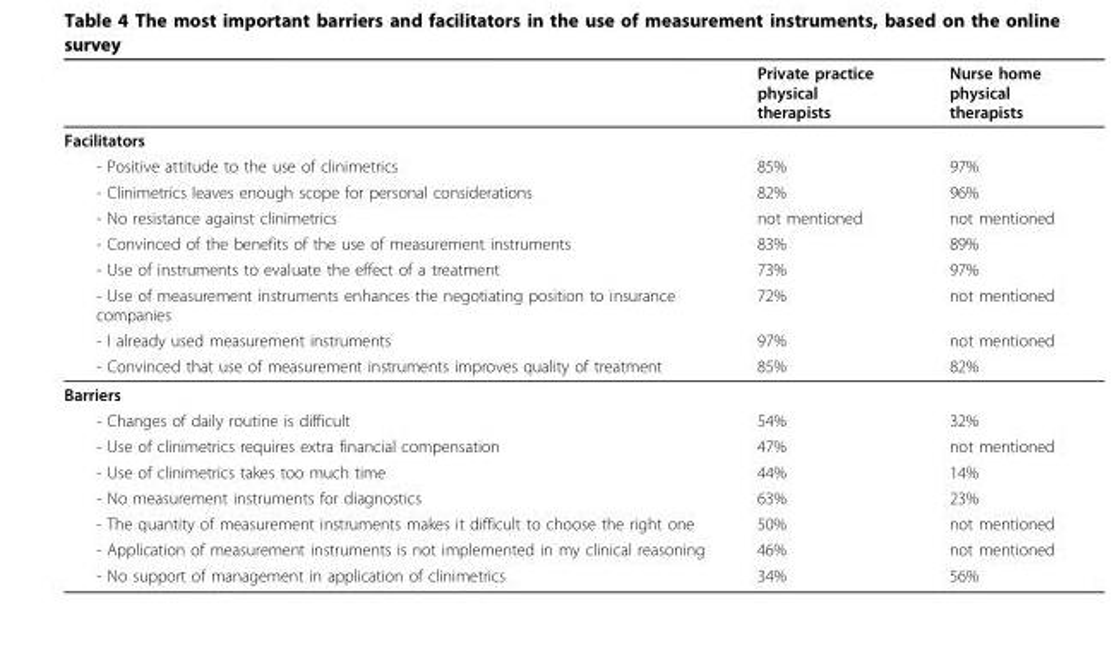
<table><thead><tr><td></td><td>Private practice physical therapists</td><td>Nurse home physical therapists</td></tr></thead><tbody><tr><td colspan="3">Facilitators</td></tr><tr><td>- Positive attitude to the use of clinimetrics</td><td>85%</td><td>97%</td></tr><tr><td>- Clinimetrics leaves enough scope for personal considerations</td><td>82%</td><td>96%</td></tr><tr><td>- No resistance against clinimetrics</td><td>not mentioned</td><td>not mentioned</td></tr><tr><td>- Convinced of the benefits of the use of measurement instruments</td><td>83%</td><td>89%</td></tr><tr><td>- Use of instruments to evaluate the effect of a treatment</td><td>73%</td><td>97%</td></tr><tr><td>- Use of measurement instruments enhances the negotiating position to insurance companies</td><td>72%</td><td>not mentioned</td></tr><tr><td>- I already used measurement instruments</td><td>97%</td><td>not mentioned</td></tr><tr><td>- Convinced that use of measurement instruments improves quality of treatment</td><td>85%</td><td>82%</td></tr><tr><td colspan="3">Barriers</td></tr><tr><td>- Changes of daily routine is difficult</td><td>54%</td><td>32%</td></tr><tr><td>- Use of clinimetrics requires extra financial compensation</td><td>47%</td><td>not mentioned</td></tr><tr><td>- Use of clinimetrics takes too much time</td><td>44%</td><td>14%</td></tr><tr><td>- No measurement instruments for diagnostics</td><td>63%</td><td>23%</td></tr><tr><td>- The quantity of measurement instruments makes it difficult to choose the right one</td><td>50%</td><td>not mentioned</td></tr><tr><td>- Application of measurement instruments is not implemented in my clinical reasoning</td><td>46%</td><td>not mentioned</td></tr><tr><td>- No support of management in application of clinimetrics</td><td>34%</td><td>56%</td></tr></tbody></table>